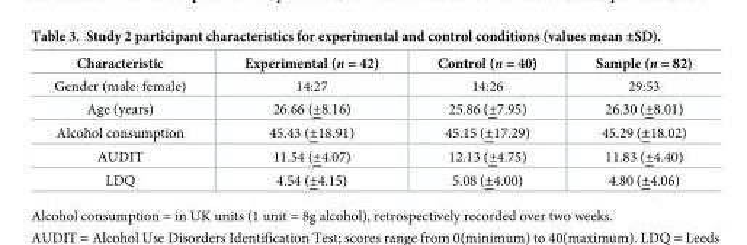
<table><thead><tr><td>Characteristic</td><td>Experimental (n = 42)</td><td>Control (n = 40)</td><td>Sample (n = 82)</td></tr></thead><tbody><tr><td>Gender (male: female)</td><td>14:27</td><td>14:26</td><td>29:53</td></tr><tr><td>Age (years)</td><td>26.66 (±8.16)</td><td>25.86 (±7.95)</td><td>26.30 (±8.01)</td></tr><tr><td>Alcohol consumption</td><td>45.43 (±18.91)</td><td>45.15 (±17.29)</td><td>45.29 (±18.02)</td></tr><tr><td>AUDIT</td><td>11.54 (±4.07)</td><td>12.13 (±4.75)</td><td>11.83 (±4.40)</td></tr><tr><td>LDQ</td><td>4.54 (±4.15)</td><td>5.08 (±4.00)</td><td>4.80 (±4.06)</td></tr></tbody></table>